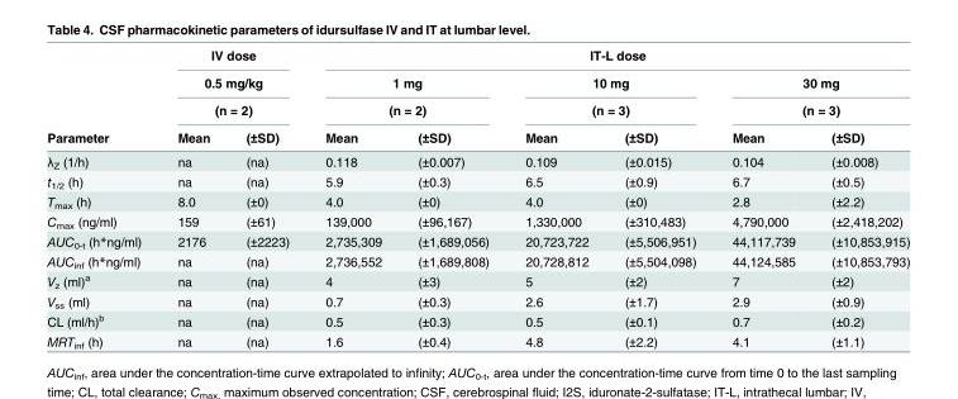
<table><thead><tr><td rowspan="4">Parameter</td><td rowspan="3" colspan="2">IV dose 0.5 mg/kg (n = 2)</td><td colspan="6">IT-L dose</td></tr><tr><td rowspan="2" colspan="2">1 mg (n = 2)</td><td rowspan="2" colspan="2">10 mg (n = 3)</td><td rowspan="2" colspan="2">30 mg (n = 3)</td></tr><tr></tr><tr><td>Mean</td><td>(±SD)</td><td>Mean</td><td>(±SD)</td><td>Mean</td><td>(±SD)</td><td>Mean</td><td>(±SD)</td></tr></thead><tbody><tr><td>λ<sub>Z</sub> (1/h)</td><td>na</td><td>(na)</td><td>0.118</td><td>(±0.007)</td><td>0.109</td><td>(±0.015)</td><td>0.104</td><td>(±0.008)</td></tr><tr><td>t<sub>1/2</sub> (h)</td><td>na</td><td>(na)</td><td>5.9</td><td>(±0.3)</td><td>6.5</td><td>(±0.9)</td><td>6.7</td><td>(±0.5)</td></tr><tr><td>T<sub>max</sub> (h)</td><td>8.0</td><td>(±0)</td><td>4.0</td><td>(±0)</td><td>4.0</td><td>(±0)</td><td>2.8</td><td>(±2.2)</td></tr><tr><td>C<sub>max</sub> (ng/ml)</td><td>159</td><td>(±61)</td><td>139,000</td><td>(±96,167)</td><td>1,330,000</td><td>(±310,483)</td><td>4,790,000</td><td>(±2,418,202)</td></tr><tr><td>AUC<sub>0-t</sub> (h*ng/ml)</td><td>2176</td><td>(±2223)</td><td>2,735,309</td><td>(±1,689,056)</td><td>20,723,722</td><td>(±5,506,951)</td><td>44,117,739</td><td>(±10,853,915)</td></tr><tr><td>AUC<sub>inf</sub> (h*ng/ml)</td><td>na</td><td>(na)</td><td>2,736,552</td><td>(±1,689,808)</td><td>20,728,812</td><td>(±5,504,098)</td><td>44,124,585</td><td>(±10,853,793)</td></tr><tr><td>V<sub>z</sub> (ml)<sup>a</sup></td><td>na</td><td>(na)</td><td>4</td><td>(±3)</td><td>5</td><td>(±2)</td><td>7</td><td>(±2)</td></tr><tr><td>V<sub>ss</sub> (ml)</td><td>na</td><td>(na)</td><td>0.7</td><td>(±0.3)</td><td>2.6</td><td>(±1.7)</td><td>2.9</td><td>(±0.9)</td></tr><tr><td>CL (ml/h)<sup>b</sup></td><td>na</td><td>(na)</td><td>0.5</td><td>(±0.3)</td><td>0.5</td><td>(±0.1)</td><td>0.7</td><td>(±0.2)</td></tr><tr><td>MRT<sub>inf</sub> (h)</td><td>na</td><td>(na)</td><td>1.6</td><td>(±0.4)</td><td>4.8</td><td>(±2.2)</td><td>4.1</td><td>(±1.1)</td></tr></tbody></table>